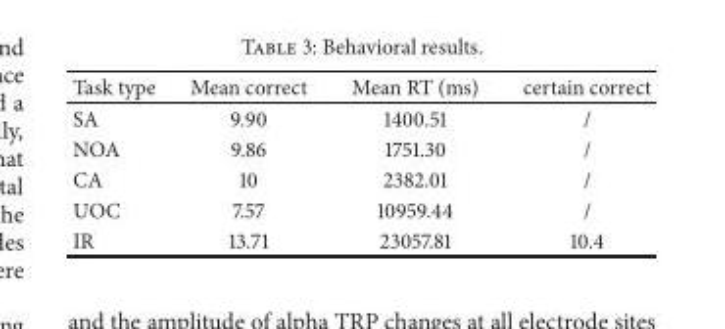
<table><thead><tr><td>Task type</td><td>Mean correct</td><td>Mean RT (ms)</td><td>certain correct</td></tr></thead><tbody><tr><td>SA</td><td>9.90</td><td>1400.51</td><td>/</td></tr><tr><td>NOA</td><td>9.86</td><td>1751.30</td><td>/</td></tr><tr><td>CA</td><td>10</td><td>2382.01</td><td>/</td></tr><tr><td>UOC</td><td>7.57</td><td>10959.44</td><td>/</td></tr><tr><td>IR</td><td>13.71</td><td>23057.81</td><td>10.4</td></tr></tbody></table>